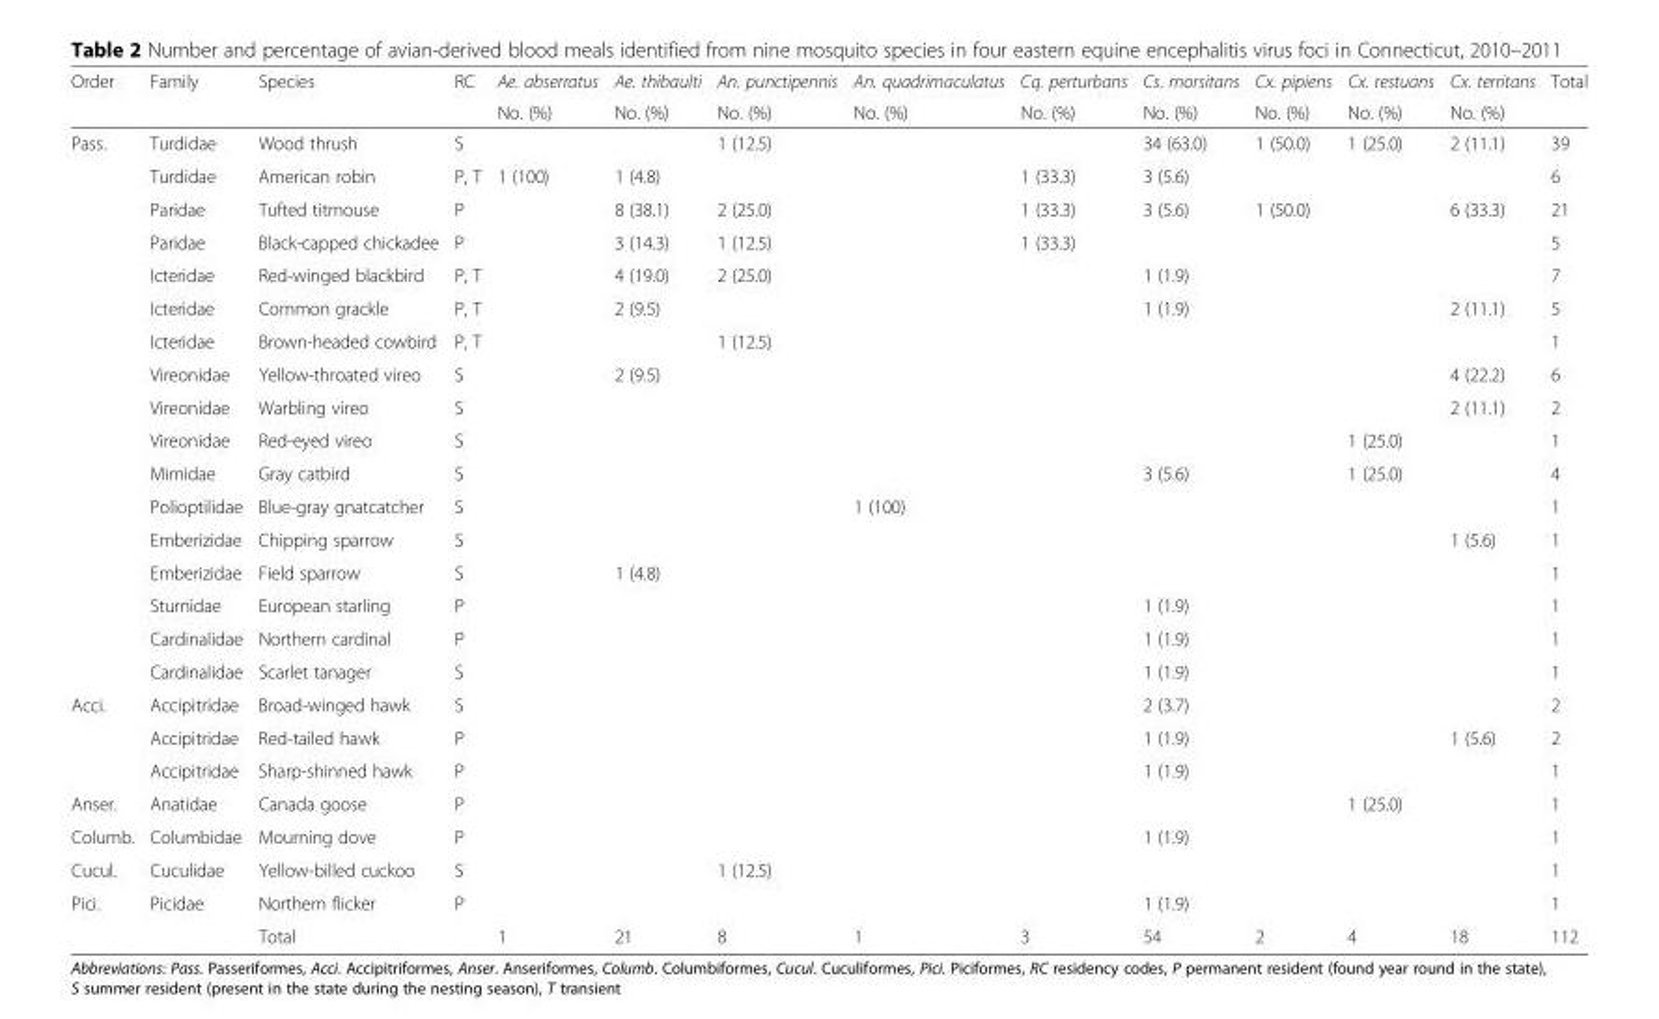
<table><thead><tr><td rowspan="2">Order</td><td rowspan="2">Family</td><td rowspan="2">Species</td><td rowspan="2">RC</td><td rowspan="2">Ae. abserratus No. (%)</td><td rowspan="2">Ae. thibaulti No. (%)</td><td rowspan="2">An. punctipennis No. (%)</td><td rowspan="2">An. quadrimaculatus No. (%)</td><td rowspan="2">Cq. perturbans No. (%)</td><td rowspan="2">Cs. morsitans No. (%)</td><td rowspan="2">Cx. pipiens No. (%)</td><td rowspan="2">Cx. restuans No. (%)</td><td rowspan="2">Cx. territans No. (%)</td><td rowspan="2">Total</td></tr><tr></tr></thead><tbody><tr><td rowspan="17">Pass.</td><td>Turdidae</td><td>Wood thrush</td><td>S</td><td></td><td></td><td>1 (12.5)</td><td></td><td></td><td>34 (63.0)</td><td>1 (50.0)</td><td>1 (25.0)</td><td>2 (11.1)</td><td>39</td></tr><tr><td>Turdidae</td><td>American robin</td><td>P, T</td><td>1 (100)</td><td>1 (4.8)</td><td></td><td></td><td>1 (33.3)</td><td>3 (5.6)</td><td></td><td></td><td></td><td>6</td></tr><tr><td>Paridae</td><td>Tufted titmouse</td><td>P</td><td></td><td>8 (38.1)</td><td>2 (25.0)</td><td></td><td>1 (33.3)</td><td>3 (5.6)</td><td>1 (50.0)</td><td></td><td>6 (33.3)</td><td>21</td></tr><tr><td>Paridae</td><td>Black-capped chickadee</td><td>P</td><td></td><td>3 (14.3)</td><td>1 (12.5)</td><td></td><td>1 (33.3)</td><td></td><td></td><td></td><td></td><td>5</td></tr><tr><td>Icteridae</td><td>Red-winged blackbird</td><td>P, T</td><td></td><td>4 (19.0)</td><td>2 (25.0)</td><td></td><td></td><td>1 (1.9)</td><td></td><td></td><td></td><td>7</td></tr><tr><td>Icteridae</td><td>Common grackle</td><td>P, T</td><td></td><td>2 (9.5)</td><td></td><td></td><td></td><td>1 (1.9)</td><td></td><td></td><td>2 (11.1)</td><td>5</td></tr><tr><td>Icteridae</td><td>Brown-headed cowbird</td><td>P, T</td><td></td><td></td><td>1 (12.5)</td><td></td><td></td><td></td><td></td><td></td><td></td><td>1</td></tr><tr><td>Vireonidae</td><td>Yellow-throated vireo</td><td>S</td><td></td><td>2 (9.5)</td><td></td><td></td><td></td><td></td><td></td><td></td><td>4 (22.2)</td><td>6</td></tr><tr><td>Vireonidae</td><td>Warbling vireo</td><td>S</td><td></td><td></td><td></td><td></td><td></td><td></td><td></td><td></td><td>2 (11.1)</td><td>2</td></tr><tr><td>Vireonidae</td><td>Red-eyed vireo</td><td>S</td><td></td><td></td><td></td><td></td><td></td><td></td><td></td><td>1 (25.0)</td><td></td><td>1</td></tr><tr><td>Mimidae</td><td>Gray catbird</td><td>S</td><td></td><td></td><td></td><td></td><td></td><td>3 (5.6)</td><td></td><td>1 (25.0)</td><td></td><td>4</td></tr><tr><td>Polioptilidae</td><td>Blue-gray gnatcatcher</td><td>S</td><td></td><td></td><td></td><td>1 (100)</td><td></td><td></td><td></td><td></td><td></td><td>1</td></tr><tr><td>Emberizidae</td><td>Chipping sparrow</td><td>S</td><td></td><td></td><td></td><td></td><td></td><td></td><td></td><td></td><td>1 (5.6)</td><td>1</td></tr><tr><td>Emberizidae</td><td>Field sparrow</td><td>S</td><td></td><td>1 (4.8)</td><td></td><td></td><td></td><td></td><td></td><td></td><td></td><td>1</td></tr><tr><td>Sturnidae</td><td>European starling</td><td>P</td><td></td><td></td><td></td><td></td><td></td><td>1 (1.9)</td><td></td><td></td><td></td><td>1</td></tr><tr><td>Cardinalidae</td><td>Northern cardinal</td><td>P</td><td></td><td></td><td></td><td></td><td></td><td>1 (1.9)</td><td></td><td></td><td></td><td>1</td></tr><tr><td>Cardinalidae</td><td>Scarlet tanager</td><td>S</td><td></td><td></td><td></td><td></td><td></td><td>1 (1.9)</td><td></td><td></td><td></td><td>1</td></tr><tr><td rowspan="3">Acci.</td><td>Accipitridae</td><td>Broad-winged hawk</td><td>S</td><td></td><td></td><td></td><td></td><td></td><td>2 (3.7)</td><td></td><td></td><td></td><td>2</td></tr><tr><td>Accipitridae</td><td>Red-tailed hawk</td><td>P</td><td></td><td></td><td></td><td></td><td></td><td>1 (1.9)</td><td></td><td></td><td>1 (5.6)</td><td>2</td></tr><tr><td>Accipitridae</td><td>Sharp-shinned hawk</td><td>P</td><td></td><td></td><td></td><td></td><td></td><td>1 (1.9)</td><td></td><td></td><td></td><td>1</td></tr><tr><td>Anser.</td><td>Anatidae</td><td>Canada goose</td><td>P</td><td></td><td></td><td></td><td></td><td></td><td></td><td></td><td>1 (25.0)</td><td></td><td>1</td></tr><tr><td>Columb.</td><td>Columbidae</td><td>Mourning dove</td><td>P</td><td></td><td></td><td></td><td></td><td></td><td>1 (1.9)</td><td></td><td></td><td></td><td>1</td></tr><tr><td>Cucul.</td><td>Cuculidae</td><td>Yellow-billed cuckoo</td><td>S</td><td></td><td></td><td>1 (12.5)</td><td></td><td></td><td></td><td></td><td></td><td></td><td>1</td></tr><tr><td rowspan="2">Pici.</td><td>Picidae</td><td>Northern flicker</td><td>P</td><td></td><td></td><td></td><td></td><td></td><td>1 (1.9)</td><td></td><td></td><td></td><td>1</td></tr><tr><td></td><td>Total</td><td></td><td>1</td><td>21</td><td>8</td><td>1</td><td>3</td><td>54</td><td>2</td><td>4</td><td>18</td><td>112</td></tr></tbody></table>